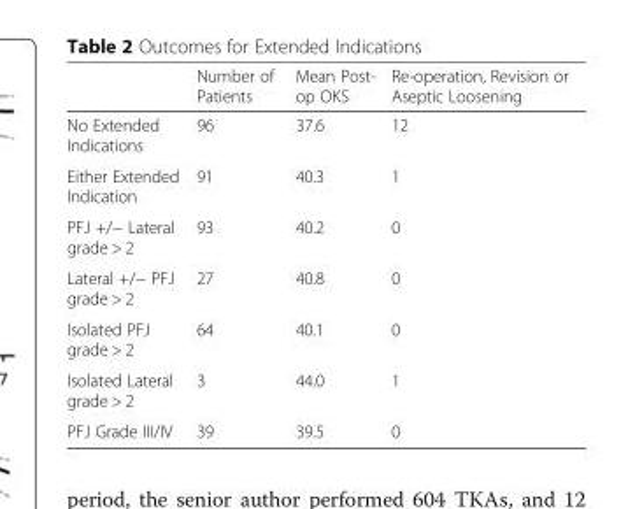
<table><thead><tr><td></td><td>Number of Patients</td><td>Mean Post- op OKS</td><td>Re-operation, Revision or Aseptic Loosening</td></tr></thead><tbody><tr><td>No Extended Indications</td><td>96</td><td>37.6</td><td>12</td></tr><tr><td>Either Extended Indication</td><td>91</td><td>40.3</td><td>1</td></tr><tr><td>PFJ +/− Lateral grade &gt; 2</td><td>93</td><td>40.2</td><td>0</td></tr><tr><td>Lateral +/− PFJ grade &gt; 2</td><td>27</td><td>40.8</td><td>0</td></tr><tr><td>Isolated PFJ grade &gt; 2</td><td>64</td><td>40.1</td><td>0</td></tr><tr><td>Isolated Lateral grade &gt; 2</td><td>3</td><td>44.0</td><td>1</td></tr><tr><td>PFJ Grade III/IV</td><td>39</td><td>39.5</td><td>0</td></tr></tbody></table>